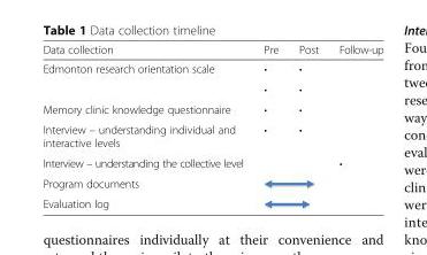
<table><thead><tr><td>Data collection</td><td>Pre</td><td>Post</td><td>Follow-up</td></tr></thead><tbody><tr><td rowspan="2">Edmonton research orientation scale</td><td>•</td><td>•</td><td></td></tr><tr><td>•</td><td>•</td><td></td></tr><tr><td>Memory clinic knowledge questionnaire</td><td>•</td><td>•</td><td></td></tr><tr><td>Interview – understanding individual and interactive levels</td><td>•</td><td>•</td><td></td></tr><tr><td>Interview – understanding the collective level</td><td></td><td></td><td>•</td></tr><tr><td colspan="4">Program documents</td></tr><tr><td>Evaluation log</td><td colspan="3"></td></tr></tbody></table>